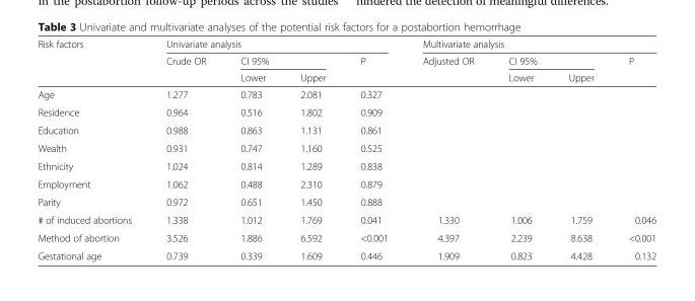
<table><thead><tr><td rowspan="3">Risk factors</td><td colspan="4">Univariate analysis</td><td colspan="4">Multivariate analysis</td></tr><tr><td rowspan="2">Crude OR</td><td colspan="2">CI 95%</td><td rowspan="2">P</td><td rowspan="2">Adjusted OR</td><td colspan="2">CI 95%</td><td rowspan="2">P</td></tr><tr><td>Lower</td><td>Upper</td><td>Lower</td><td>Upper</td></tr></thead><tbody><tr><td>Age</td><td>1.277</td><td>0.783</td><td>2.081</td><td>0.327</td><td></td><td></td><td></td><td></td></tr><tr><td>Residence</td><td>0.964</td><td>0.516</td><td>1.802</td><td>0.909</td><td></td><td></td><td></td><td></td></tr><tr><td>Education</td><td>0.988</td><td>0.863</td><td>1.131</td><td>0.861</td><td></td><td></td><td></td><td></td></tr><tr><td>Wealth</td><td>0.931</td><td>0.747</td><td>1.160</td><td>0.525</td><td></td><td></td><td></td><td></td></tr><tr><td>Ethnicity</td><td>1.024</td><td>0.814</td><td>1.289</td><td>0.838</td><td></td><td></td><td></td><td></td></tr><tr><td>Employment</td><td>1.062</td><td>0.488</td><td>2.310</td><td>0.879</td><td></td><td></td><td></td><td></td></tr><tr><td>Parity</td><td>0.972</td><td>0.651</td><td>1.450</td><td>0.888</td><td></td><td></td><td></td><td></td></tr><tr><td># of induced abortions</td><td>1.338</td><td>1.012</td><td>1.769</td><td>0.041</td><td>1.330</td><td>1.006</td><td>1.759</td><td>0.046</td></tr><tr><td>Method of abortion</td><td>3.526</td><td>1.886</td><td>6.592</td><td>&lt;0.001</td><td>4.397</td><td>2.239</td><td>8.638</td><td>&lt;0.001</td></tr><tr><td>Gestational age</td><td>0.739</td><td>0.339</td><td>1.609</td><td>0.446</td><td>1.909</td><td>0.823</td><td>4.428</td><td>0.132</td></tr></tbody></table>